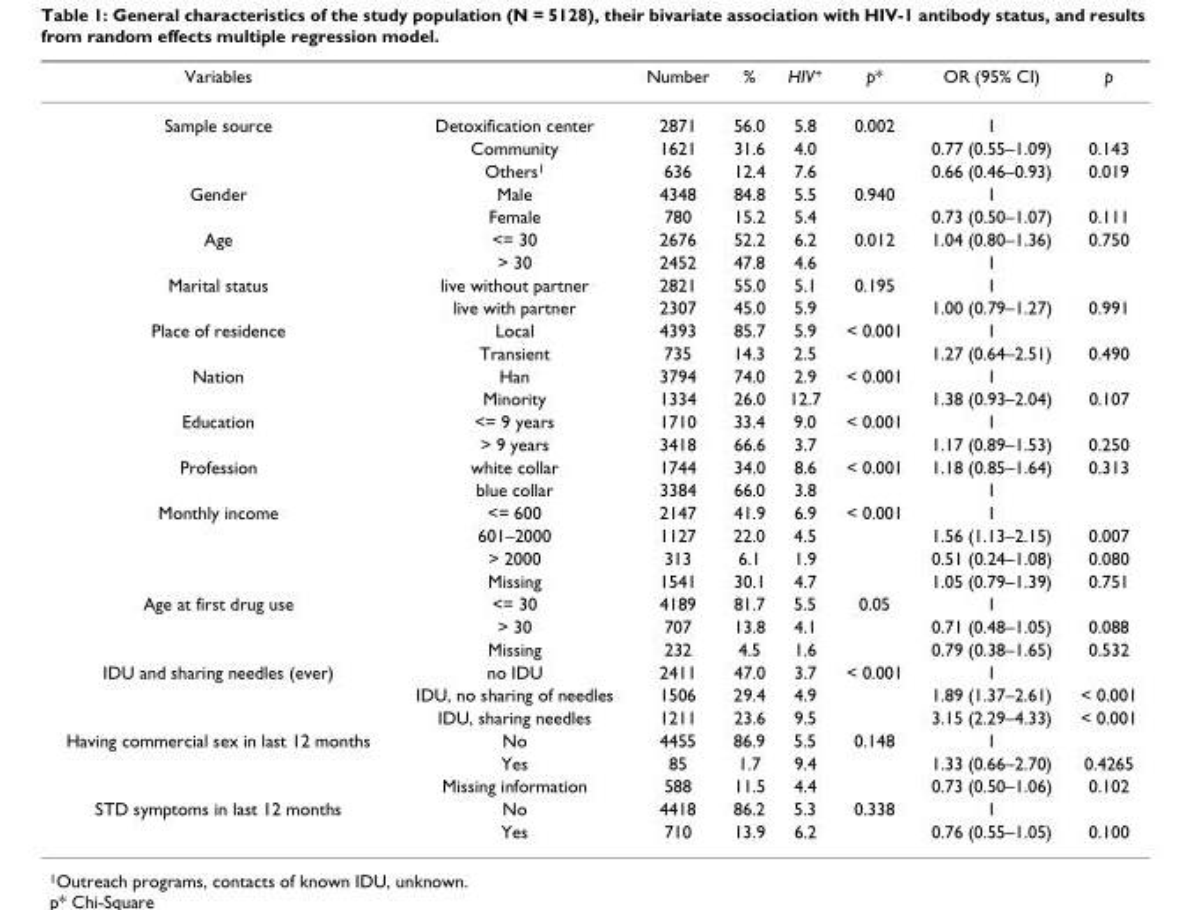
<table><thead><tr><td>Variables</td><td></td><td>Number</td><td>%</td><td>HIV<sup>+</sup></td><td>p*</td><td>OR (95% CI)</td><td>p</td></tr></thead><tbody><tr><td rowspan="3">Sample source</td><td>Detoxification center</td><td>2871</td><td>56.0</td><td>5.8</td><td>0.002</td><td>1</td><td></td></tr><tr><td>Community</td><td>1621</td><td>31.6</td><td>4.0</td><td></td><td>0.77 (0.55–1.09)</td><td>0.143</td></tr><tr><td>Others<sup>1</sup></td><td>636</td><td>12.4</td><td>7.6</td><td></td><td>0.66 (0.46–0.93)</td><td>0.019</td></tr><tr><td rowspan="2">Gender</td><td>Male</td><td>4348</td><td>84.8</td><td>5.5</td><td>0.940</td><td>1</td><td></td></tr><tr><td>Female</td><td>780</td><td>15.2</td><td>5.4</td><td></td><td>0.73 (0.50–1.07)</td><td>0.111</td></tr><tr><td rowspan="2">Age</td><td>&lt;= 30</td><td>2676</td><td>52.2</td><td>6.2</td><td>0.012</td><td>1.04 (0.80–1.36)</td><td>0.750</td></tr><tr><td>&gt; 30</td><td>2452</td><td>47.8</td><td>4.6</td><td></td><td>1</td><td></td></tr><tr><td rowspan="2">Marital status</td><td>live without partner</td><td>2821</td><td>55.0</td><td>5.1</td><td>0.195</td><td>1</td><td></td></tr><tr><td>live with partner</td><td>2307</td><td>45.0</td><td>5.9</td><td></td><td>1.00 (0.79–1.27)</td><td>0.991</td></tr><tr><td rowspan="2">Place of residence</td><td>Local</td><td>4393</td><td>85.7</td><td>5.9</td><td>&lt; 0.001</td><td>1</td><td></td></tr><tr><td>Transient</td><td>735</td><td>14.3</td><td>2.5</td><td></td><td>1.27 (0.64–2.51)</td><td>0.490</td></tr><tr><td rowspan="2">Nation</td><td>Han</td><td>3794</td><td>74.0</td><td>2.9</td><td>&lt; 0.001</td><td>1</td><td></td></tr><tr><td>Minority</td><td>1334</td><td>26.0</td><td>12.7</td><td></td><td>1.38 (0.93–2.04)</td><td>0.107</td></tr><tr><td rowspan="2">Education</td><td>&lt;= 9 years</td><td>1710</td><td>33.4</td><td>9.0</td><td>&lt; 0.001</td><td>1</td><td></td></tr><tr><td>&gt; 9 years</td><td>3418</td><td>66.6</td><td>3.7</td><td></td><td>1.17 (0.89–1.53)</td><td>0.250</td></tr><tr><td rowspan="2">Profession</td><td>white collar</td><td>1744</td><td>34.0</td><td>8.6</td><td>&lt; 0.001</td><td>1.18 (0.85–1.64)</td><td>0.313</td></tr><tr><td>blue collar</td><td>3384</td><td>66.0</td><td>3.8</td><td></td><td>1</td><td></td></tr><tr><td rowspan="4">Monthly income</td><td>&lt;= 600</td><td>2147</td><td>41.9</td><td>6.9</td><td>&lt; 0.001</td><td>1</td><td></td></tr><tr><td>601–2000</td><td>1127</td><td>22.0</td><td>4.5</td><td></td><td>1.56 (1.13–2.15)</td><td>0.007</td></tr><tr><td>&gt; 2000</td><td>313</td><td>6.1</td><td>1.9</td><td></td><td>0.51 (0.24–1.08)</td><td>0.080</td></tr><tr><td>Missing</td><td>1541</td><td>30.1</td><td>4.7</td><td></td><td>1.05 (0.79–1.39)</td><td>0.751</td></tr><tr><td rowspan="3">Age at first drug use</td><td>&lt;= 30</td><td>4189</td><td>81.7</td><td>5.5</td><td>0.05</td><td>1</td><td></td></tr><tr><td>&gt; 30</td><td>707</td><td>13.8</td><td>4.1</td><td></td><td>0.71 (0.48–1.05)</td><td>0.088</td></tr><tr><td>Missing</td><td>232</td><td>4.5</td><td>1.6</td><td></td><td>0.79 (0.38–1.65)</td><td>0.532</td></tr><tr><td rowspan="3">IDU and sharing needles (ever)</td><td>no IDU</td><td>2411</td><td>47.0</td><td>3.7</td><td>&lt; 0.001</td><td>1</td><td></td></tr><tr><td>IDU, no sharing of needles</td><td>1506</td><td>29.4</td><td>4.9</td><td></td><td>1.89 (1.37–2.61)</td><td>&lt; 0.001</td></tr><tr><td>IDU, sharing needles</td><td>1211</td><td>23.6</td><td>9.5</td><td></td><td>3.15 (2.29–4.33)</td><td>&lt; 0.001</td></tr><tr><td rowspan="3">Having commercial sex in last 12 months</td><td>No</td><td>4455</td><td>86.9</td><td>5.5</td><td>0.148</td><td>1</td><td></td></tr><tr><td>Yes</td><td>85</td><td>1.7</td><td>9.4</td><td></td><td>1.33 (0.66–2.70)</td><td>0.4265</td></tr><tr><td>Missing information</td><td>588</td><td>11.5</td><td>4.4</td><td></td><td>0.73 (0.50–1.06)</td><td>0.102</td></tr><tr><td rowspan="2">STD symptoms in last 12 months</td><td>No</td><td>4418</td><td>86.2</td><td>5.3</td><td>0.338</td><td>1</td><td></td></tr><tr><td>Yes</td><td>710</td><td>13.9</td><td>6.2</td><td></td><td>0.76 (0.55–1.05)</td><td>0.100</td></tr></tbody></table>